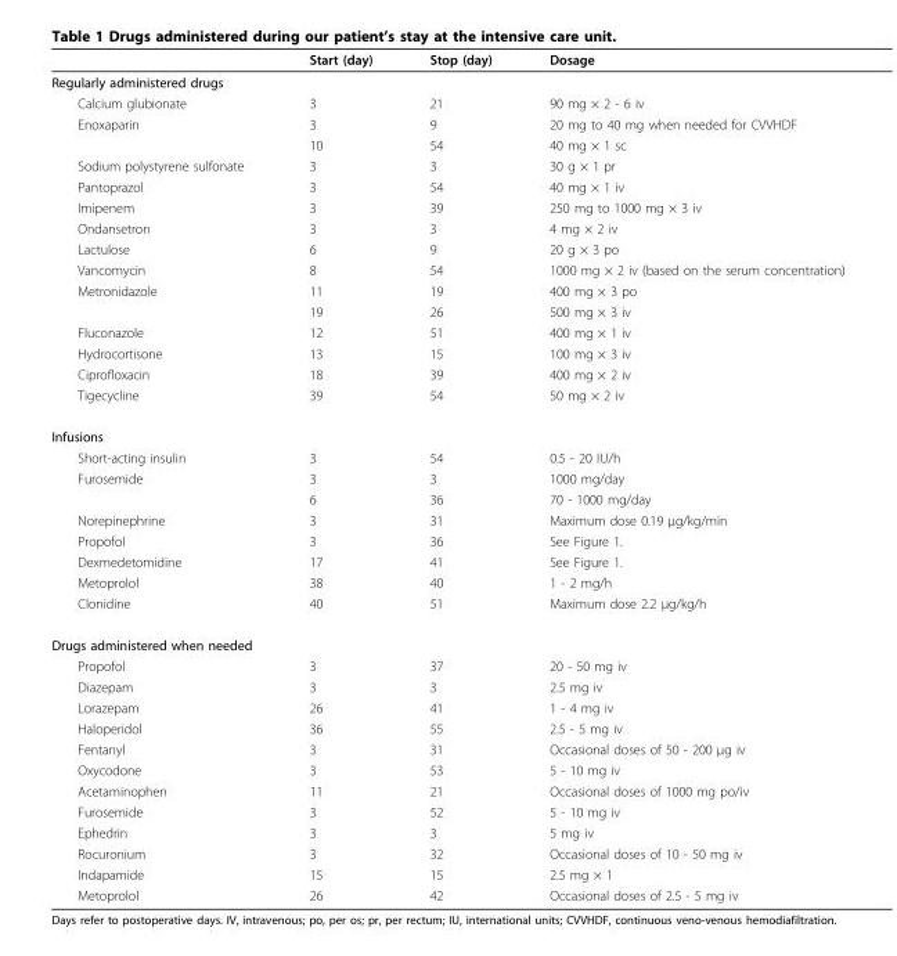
<table><thead><tr><td></td><td>Start (day)</td><td>Stop (day)</td><td>Dosage</td></tr></thead><tbody><tr><td colspan="4">Regularly administered drugs</td></tr><tr><td>Calcium glubionate</td><td>3</td><td>21</td><td>90 mg × 2 - 6 iv</td></tr><tr><td rowspan="2">Enoxaparin</td><td>3</td><td>9</td><td>20 mg to 40 mg when needed for CVVHDF</td></tr><tr><td>10</td><td>54</td><td>40 mg × 1 sc</td></tr><tr><td>Sodium polystyrene sulfonate</td><td>3</td><td>3</td><td>30 g × 1 pr</td></tr><tr><td>Pantoprazol</td><td>3</td><td>54</td><td>40 mg × 1 iv</td></tr><tr><td>Imipenem</td><td>3</td><td>39</td><td>250 mg to 1000 mg × 3 iv</td></tr><tr><td>Ondansetron</td><td>3</td><td>3</td><td>4 mg × 2 iv</td></tr><tr><td>Lactulose</td><td>6</td><td>9</td><td>20 g × 3 po</td></tr><tr><td>Vancomycin</td><td>8</td><td>54</td><td>1000 mg × 2 iv (based on the serum concentration)</td></tr><tr><td rowspan="2">Metronidazole</td><td>11</td><td>19</td><td>400 mg × 3 po</td></tr><tr><td>19</td><td>26</td><td>500 mg × 3 iv</td></tr><tr><td>Fluconazole</td><td>12</td><td>51</td><td>400 mg × 1 iv</td></tr><tr><td>Hydrocortisone</td><td>13</td><td>15</td><td>100 mg × 3 iv</td></tr><tr><td>Ciprofloxacin</td><td>18</td><td>39</td><td>400 mg × 2 iv</td></tr><tr><td>Tigecycline</td><td>39</td><td>54</td><td>50 mg × 2 iv</td></tr><tr><td colspan="4">Infusions</td></tr><tr><td>Short-acting insulin</td><td>3</td><td>54</td><td>0.5 - 20 IU/h</td></tr><tr><td rowspan="2">Furosemide</td><td>3</td><td>3</td><td>1000 mg/day</td></tr><tr><td>6</td><td>36</td><td>70 - 1000 mg/day</td></tr><tr><td>Norepinephrine</td><td>3</td><td>31</td><td>Maximum dose 0.19 μg/kg/min</td></tr><tr><td>Propofol</td><td>3</td><td>36</td><td>See Figure 1.</td></tr><tr><td>Dexmedetomidine</td><td>17</td><td>41</td><td>See Figure 1.</td></tr><tr><td>Metoprolol</td><td>38</td><td>40</td><td>1 - 2 mg/h</td></tr><tr><td>Clonidine</td><td>40</td><td>51</td><td>Maximum dose 2.2 μg/kg/h</td></tr><tr><td colspan="4">Drugs administered when needed</td></tr><tr><td>Propofol</td><td>3</td><td>37</td><td>20 - 50 mg iv</td></tr><tr><td>Diazepam</td><td>3</td><td>3</td><td>2.5 mg iv</td></tr><tr><td>Lorazepam</td><td>26</td><td>41</td><td>1 - 4 mg iv</td></tr><tr><td>Haloperidol</td><td>36</td><td>55</td><td>2.5 - 5 mg iv</td></tr><tr><td>Fentanyl</td><td>3</td><td>31</td><td>Occasional doses of 50 - 200 μg iv</td></tr><tr><td>Oxycodone</td><td>3</td><td>53</td><td>5 - 10 mg iv</td></tr><tr><td>Acetaminophen</td><td>11</td><td>21</td><td>Occasional doses of 1000 mg po/iv</td></tr><tr><td>Furosemide</td><td>3</td><td>52</td><td>5 - 10 mg iv</td></tr><tr><td>Ephedrin</td><td>3</td><td>3</td><td>5 mg iv</td></tr><tr><td>Rocuronium</td><td>3</td><td>32</td><td>Occasional doses of 10 - 50 mg iv</td></tr><tr><td>Indapamide</td><td>15</td><td>15</td><td>2.5 mg × 1</td></tr><tr><td>Metoprolol</td><td>26</td><td>42</td><td>Occasional doses of 2.5 - 5 mg iv</td></tr></tbody></table>